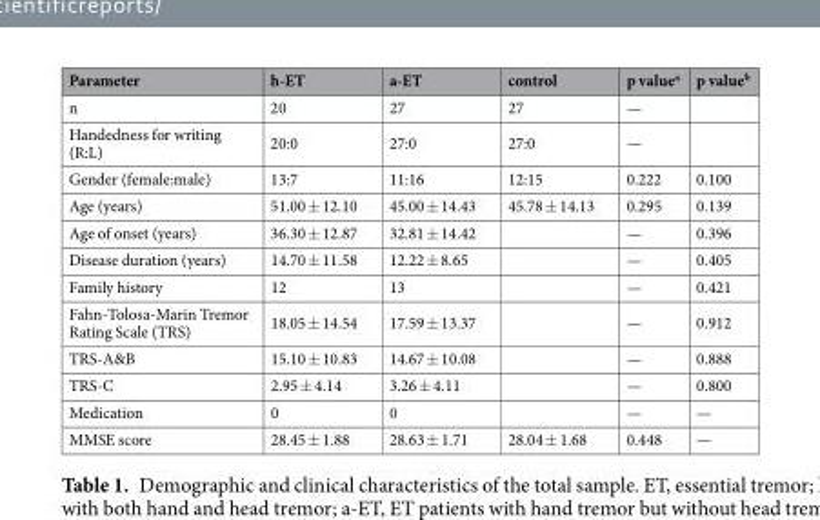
<table><thead><tr><td>Parameter</td><td>h-ET</td><td>a-ET</td><td>control</td><td>p value<sup>a</sup></td><td>p value<sup>b</sup></td></tr></thead><tbody><tr><td>n</td><td>20</td><td>27</td><td>27</td><td>—</td><td></td></tr><tr><td>Handedness for writing (R:L)</td><td>20:0</td><td>27:0</td><td>27:0</td><td>—</td><td></td></tr><tr><td>Gender (female:male)</td><td>13:7</td><td>11:16</td><td>12:15</td><td>0.222</td><td>0.100</td></tr><tr><td>Age (years)</td><td>51.00 ± 12.10</td><td>45.00 ± 14.43</td><td>45.78 ± 14.13</td><td>0.295</td><td>0.139</td></tr><tr><td>Age of onset (years)</td><td>36.30 ± 12.87</td><td>32.81 ± 14.42</td><td></td><td>—</td><td>0.396</td></tr><tr><td>Disease duration (years)</td><td>14.70 ± 11.58</td><td>12.22 ± 8.65</td><td></td><td>—</td><td>0.405</td></tr><tr><td>Family history</td><td>12</td><td>13</td><td></td><td>—</td><td>0.421</td></tr><tr><td>Fahn-Tolosa-Marin Tremor Rating Scale (TRS)</td><td>18.05 ± 14.54</td><td>17.59 ± 13.37</td><td></td><td>—</td><td>0.912</td></tr><tr><td>TRS-A&amp;B</td><td>15.10 ± 10.83</td><td>14.67 ± 10.08</td><td></td><td>—</td><td>0.888</td></tr><tr><td>TRS-C</td><td>2.95 ± 4.14</td><td>3.26 ± 4.11</td><td></td><td>—</td><td>0.800</td></tr><tr><td>Medication</td><td>0</td><td>0</td><td></td><td>—</td><td>—</td></tr><tr><td>MMSE score</td><td>28.45 ± 1.88</td><td>28.63 ± 1.71</td><td>28.04 ± 1.68</td><td>0.448</td><td>—</td></tr></tbody></table>